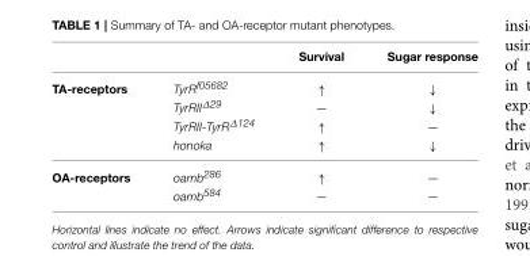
<table><thead><tr><td></td><td></td><td>Survival</td><td>Sugar response</td></tr></thead><tbody><tr><td rowspan="4">TA-receptors</td><td>TyrRf05682</td><td>↑</td><td>↓</td></tr><tr><td>TyrRII∆29</td><td>—</td><td>↓</td></tr><tr><td>TyrRII-TyrR∆124</td><td>↑</td><td>—</td></tr><tr><td>honoka</td><td>↑</td><td>↓</td></tr><tr><td rowspan="2">OA-receptors</td><td>oamb<sup>286</sup></td><td>↑</td><td>—</td></tr><tr><td>oamb<sup>584</sup></td><td>—</td><td>—</td></tr></tbody></table>